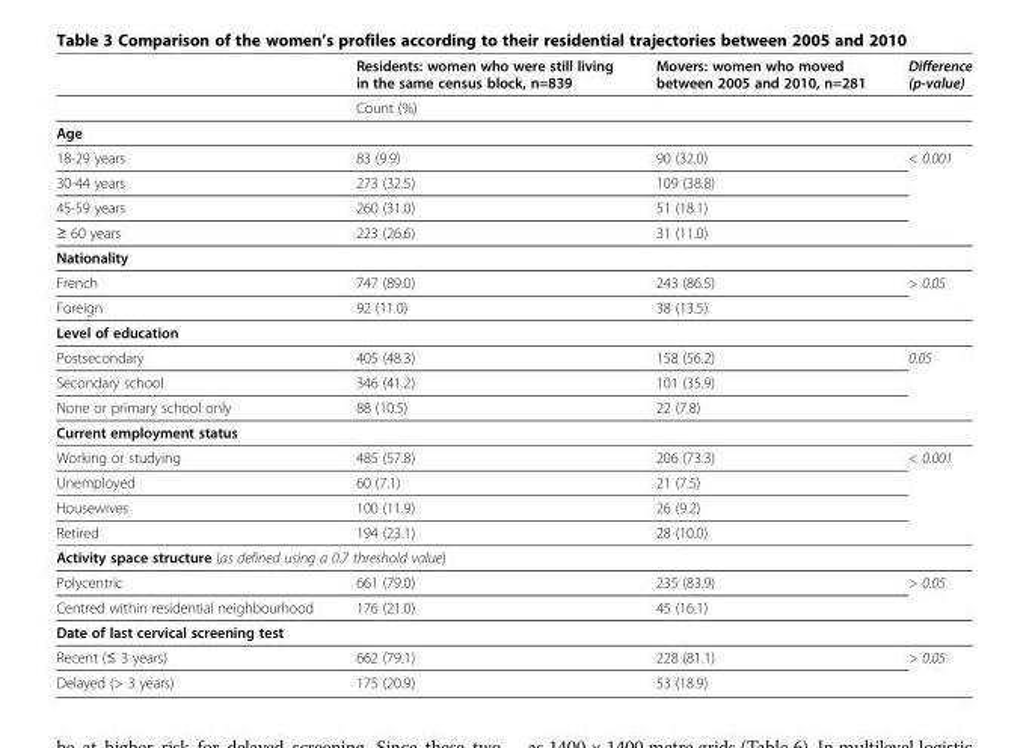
<table><thead><tr><td></td><td>Residents: women who were still living in the same census block, n=839</td><td>Movers: women who moved between 2005 and 2010, n=281</td><td>Difference (p-value)</td></tr></thead><tbody><tr><td></td><td>Count (%)</td><td></td><td></td></tr><tr><td colspan="4">Age</td></tr><tr><td>18-29 years</td><td>83 (9.9)</td><td>90 (32.0)</td><td rowspan="4">&lt; 0.001</td></tr><tr><td>30-44 years</td><td>273 (32.5)</td><td>109 (38.8)</td></tr><tr><td>45-59 years</td><td>260 (31.0)</td><td>51 (18.1)</td></tr><tr><td>≥ 60 years</td><td>223 (26.6)</td><td>31 (11.0)</td></tr><tr><td colspan="4">Nationality</td></tr><tr><td>French</td><td>747 (89.0)</td><td>243 (86.5)</td><td>&gt; 0.05</td></tr><tr><td>Foreign</td><td>92 (11.0)</td><td>38 (13.5)</td><td></td></tr><tr><td colspan="4">Level of education</td></tr><tr><td>Postsecondary</td><td>405 (48.3)</td><td>158 (56.2)</td><td rowspan="3">0.05</td></tr><tr><td>Secondary school</td><td>346 (41.2)</td><td>101 (35.9)</td></tr><tr><td>None or primary school only</td><td>88 (10.5)</td><td>22 (7.8)</td></tr><tr><td colspan="4">Current employment status</td></tr><tr><td>Working or studying</td><td>485 (57.8)</td><td>206 (73.3)</td><td>&lt; 0.001</td></tr><tr><td>Unemployed</td><td>60 (7.1)</td><td>21 (7.5)</td><td></td></tr><tr><td>Housewives</td><td>100 (11.9)</td><td>26 (9.2)</td><td></td></tr><tr><td>Retired</td><td>194 (23.1)</td><td>28 (10.0)</td><td></td></tr><tr><td colspan="4">Activity space structure (as defined using a 0.7 threshold value)</td></tr><tr><td>Polycentric</td><td>661 (79.0)</td><td>235 (83.9)</td><td rowspan="2">&gt; 0.05</td></tr><tr><td>Centred within residential neighbourhood</td><td>176 (21.0)</td><td>45 (16.1)</td></tr><tr><td colspan="4">Date of last cervical screening test</td></tr><tr><td>Recent (≤ 3 years)</td><td>662 (79.1)</td><td>228 (81.1)</td><td>&gt; 0.05</td></tr><tr><td>Delayed (&gt; 3 years)</td><td>175 (20.9)</td><td>53 (18.9)</td><td></td></tr></tbody></table>